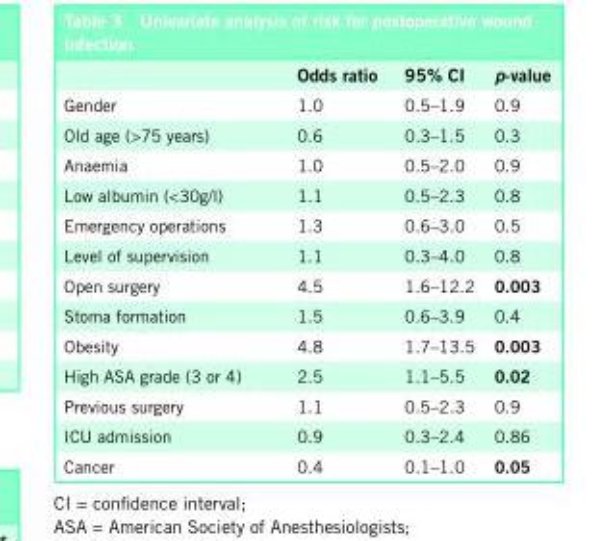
<table><thead><tr><td></td><td>Odds ratio</td><td>95% CI</td><td>p-value</td></tr></thead><tbody><tr><td>Gender</td><td>1.0</td><td>0.5–1.9</td><td>0.9</td></tr><tr><td>Old age (&gt;75 years)</td><td>0.6</td><td>0.3–1.5</td><td>0.3</td></tr><tr><td>Anaemia</td><td>1.0</td><td>0.5–2.0</td><td>0.9</td></tr><tr><td>Low albumin (&lt;30g/l)</td><td>1.1</td><td>0.5–2.3</td><td>0.8</td></tr><tr><td>Emergency operations</td><td>1.3</td><td>0.6–3.0</td><td>0.5</td></tr><tr><td>Level of supervision</td><td>1.1</td><td>0.3–4.0</td><td>0.8</td></tr><tr><td>Open surgery</td><td>4.5</td><td>1.6–12.2</td><td>0.003</td></tr><tr><td>Stoma formation</td><td>1.5</td><td>0.6–3.9</td><td>0.4</td></tr><tr><td>Obesity</td><td>4.8</td><td>1.7–13.5</td><td>0.003</td></tr><tr><td>High ASA grade (3 or 4)</td><td>2.5</td><td>1.1–5.5</td><td>0.02</td></tr><tr><td>Previous surgery</td><td>1.1</td><td>0.5–2.3</td><td>0.9</td></tr><tr><td>ICU admission</td><td>0.9</td><td>0.3–2.4</td><td>0.86</td></tr><tr><td>Cancer</td><td>0.4</td><td>0.1–1.0</td><td>0.05</td></tr></tbody></table>